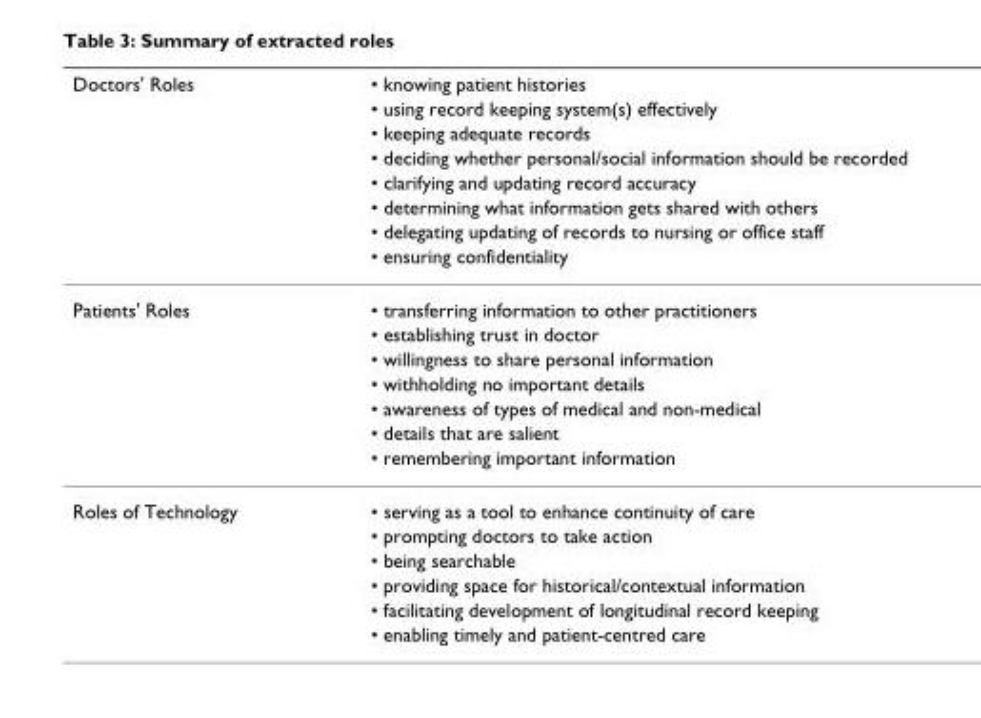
<table><thead><tr><td rowspan="8">Doctors&#x27; Roles</td><td rowspan="8">• knowing patient histories • using record keeping system(s) effectively • keeping adequate records • deciding whether personal/social information should be recorded • clarifying and updating record accuracy • determining what information gets shared with others • delegating updating of records to nursing or office staff • ensuring confidentiality</td></tr><tr></tr><tr></tr><tr></tr><tr></tr><tr></tr><tr></tr><tr></tr></thead><tbody><tr><td rowspan="7">Patients&#x27; Roles</td><td>• transferring information to other practitioners</td></tr><tr><td>• establishing trust in doctor</td></tr><tr><td>• willingness to share personal information</td></tr><tr><td>• withholding no important details</td></tr><tr><td>• awareness of types of medical and non-medical</td></tr><tr><td>• details that are salient</td></tr><tr><td>• remembering important information</td></tr><tr><td rowspan="6">Roles of Technology</td><td>• serving as a tool to enhance continuity of care</td></tr><tr><td>• prompting doctors to take action</td></tr><tr><td>• being searchable</td></tr><tr><td>• providing space for historical/contextual information</td></tr><tr><td>• facilitating development of longitudinal record keeping</td></tr><tr><td>• enabling timely and patient-centred care</td></tr></tbody></table>